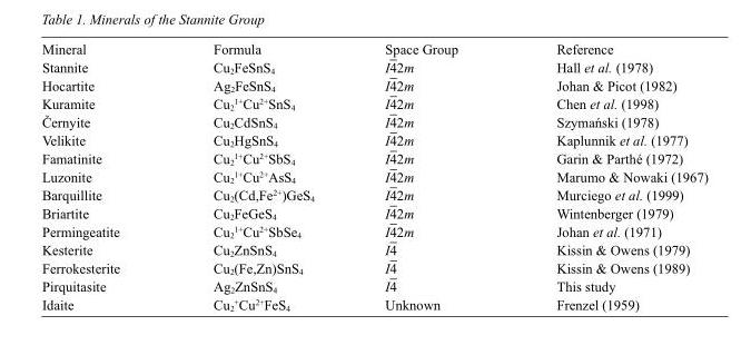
<table><thead><tr><td>Mineral</td><td>Formula</td><td>Space Group</td><td>Reference</td></tr></thead><tbody><tr><td>Stannite</td><td>Cu<sub>2</sub>FeSnS<sub>4</sub></td><td>I42m</td><td>Hall et al. (1978)</td></tr><tr><td>Hocartite</td><td>Ag<sub>2</sub>FeSnS<sub>4</sub></td><td>I42m</td><td>Johan &amp; Picot (1982)</td></tr><tr><td>Kuramite</td><td>Cu<sub>2</sub><sup>1+</sup>Cu<sup>2+</sup>SnS<sub>4</sub></td><td>I42m</td><td>Chen et al. (1998)</td></tr><tr><td>Černyite</td><td>Cu<sub>2</sub>CdSnS<sub>4</sub></td><td>I42m</td><td>Szymański (1978)</td></tr><tr><td>Velikite</td><td>Cu<sub>2</sub>HgSnS<sub>4</sub></td><td>I42m</td><td>Kaplunnik et al. (1977)</td></tr><tr><td>Famatinite</td><td>Cu<sub>2</sub><sup>1+</sup>Cu<sup>2+</sup>SbS<sub>4</sub></td><td>I42m</td><td>Garin &amp; Parthé (1972)</td></tr><tr><td>Luzonite</td><td>Cu<sub>2</sub><sup>1+</sup>Cu<sup>2+</sup>AsS<sub>4</sub></td><td>I42m</td><td>Marumo &amp; Nowaki (1967)</td></tr><tr><td>Barquillite</td><td>Cu<sub>2</sub>(Cd,Fe<sup>2+</sup>)GeS<sub>4</sub></td><td>I42m</td><td>Murciego et al. (1999)</td></tr><tr><td>Briartite</td><td>Cu<sub>2</sub>FeGeS<sub>4</sub></td><td>I42m</td><td>Wintenberger (1979)</td></tr><tr><td>Permingeatite</td><td>Cu<sub>2</sub><sup>1+</sup>Cu<sup>2+</sup>SbSe<sub>4</sub></td><td>I42m</td><td>Johan et al. (1971)</td></tr><tr><td>Kesterite</td><td>Cu<sub>2</sub>ZnSnS<sub>4</sub></td><td>I4</td><td>Kissin &amp; Owens (1979)</td></tr><tr><td>Ferrokesterite</td><td>Cu<sub>2</sub>(Fe,Zn)SnS<sub>4</sub></td><td>I4</td><td>Kissin &amp; Owens (1989)</td></tr><tr><td>Pirquitasite</td><td>Ag<sub>2</sub>ZnSnS<sub>4</sub></td><td>I4</td><td>This study</td></tr><tr><td>Idaite</td><td>Cu<sub>2</sub><sup>+</sup>Cu<sup>2+</sup>FeS<sub>4</sub></td><td>Unknown</td><td>Frenzel (1959)</td></tr></tbody></table>